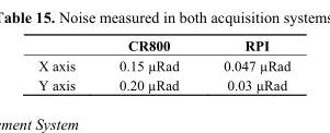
<table><thead><tr><td></td><td>CR800</td><td>RPI</td></tr></thead><tbody><tr><td>X axis</td><td>0.15 µRad</td><td>0.047 µRad</td></tr><tr><td>Y axis</td><td>0.20 µRad</td><td>0.03 µRad</td></tr></tbody></table>